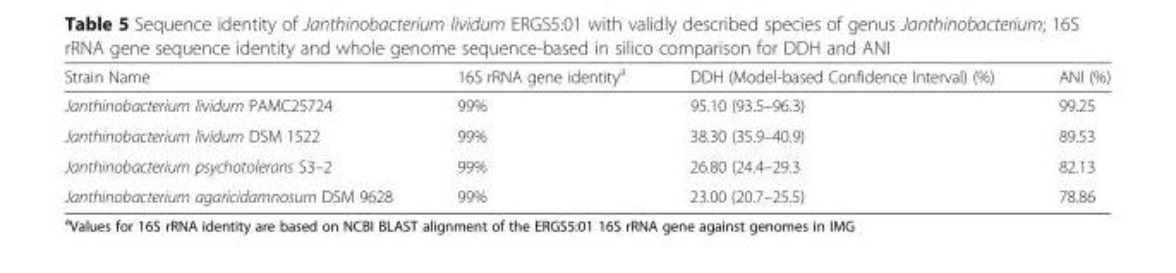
<table><thead><tr><td>Strain Name</td><td>16S rRNA gene identity<sup>a</sup></td><td>DDH (Model-based Confidence Interval) (%)</td><td>ANI (%)</td></tr></thead><tbody><tr><td>Janthinobacterium lividum PAMC25724</td><td>99%</td><td>95.10 (93.5–96.3)</td><td>99.25</td></tr><tr><td>Janthinobacterium lividum DSM 1522</td><td>99%</td><td>38.30 (35.9–40.9)</td><td>89.53</td></tr><tr><td>Janthinobacterium psychotolerans S3–2</td><td>99%</td><td>26.80 (24.4–29.3</td><td>82.13</td></tr><tr><td>Janthinobacterium agaricidamnosum DSM 9628</td><td>99%</td><td>23.00 (20.7–25.5)</td><td>78.86</td></tr></tbody></table>